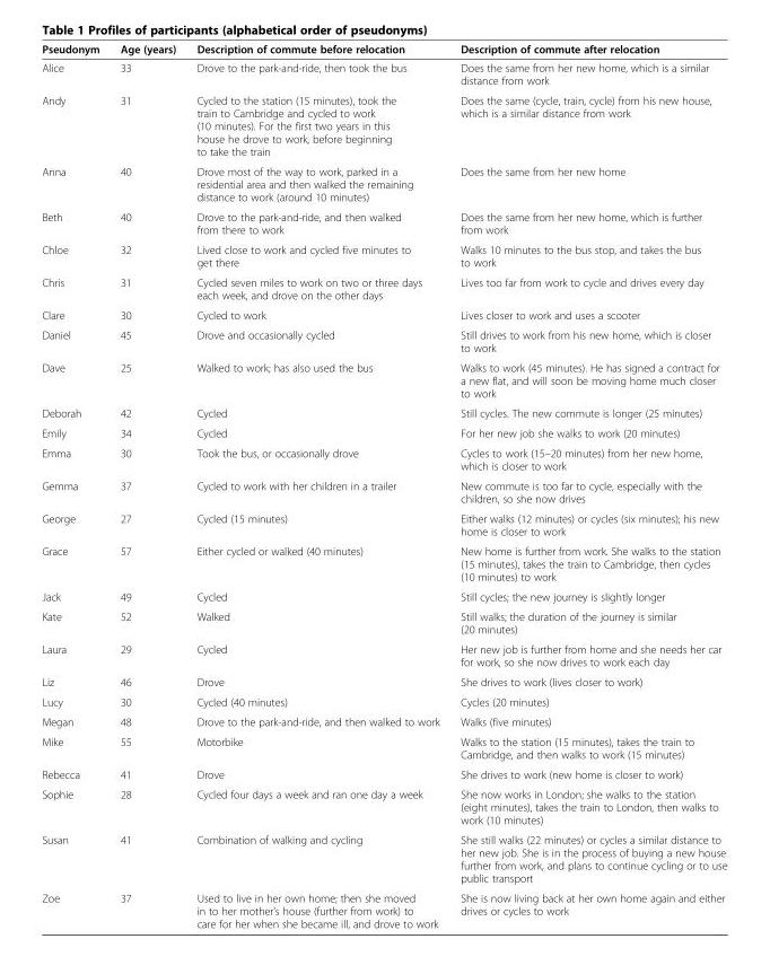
<table><thead><tr><td>Pseudonym</td><td>Age (years)</td><td>Description of commute before relocation</td><td>Description of commute after relocation</td></tr></thead><tbody><tr><td>Alice</td><td>33</td><td>Drove to the park-and-ride, then took the bus</td><td>Does the same from her new home, which is a similar distance from work</td></tr><tr><td>Andy</td><td>31</td><td>Cycled to the station (15 minutes), took the train to Cambridge and cycled to work (10 minutes). For the first two years in this house he drove to work, before beginning to take the train</td><td>Does the same (cycle, train, cycle) from his new house, which is a similar distance from work</td></tr><tr><td>Anna</td><td>40</td><td>Drove most of the way to work, parked in a residential area and then walked the remaining distance to work (around 10 minutes)</td><td>Does the same from her new home</td></tr><tr><td>Beth</td><td>40</td><td>Drove to the park-and-ride, and then walked from there to work</td><td>Does the same from her new home, which is further from work</td></tr><tr><td>Chloe</td><td>32</td><td>Lived close to work and cycled five minutes to get there</td><td>Walks 10 minutes to the bus stop, and takes the bus to work</td></tr><tr><td>Chris</td><td>31</td><td>Cycled seven miles to work on two or three days each week, and drove on the other days</td><td>Lives too far from work to cycle and drives every day</td></tr><tr><td>Clare</td><td>30</td><td>Cycled to work</td><td>Lives closer to work and uses a scooter</td></tr><tr><td>Daniel</td><td>45</td><td>Drove and occasionally cycled</td><td>Still drives to work from his new home, which is closer to work</td></tr><tr><td>Dave</td><td>25</td><td>Walked to work; has also used the bus</td><td>Walks to work (45 minutes). He has signed a contract for a new flat, and will soon be moving home much closer to work</td></tr><tr><td>Deborah</td><td>42</td><td>Cycled</td><td>Still cycles. The new commute is longer (25 minutes)</td></tr><tr><td>Emily</td><td>34</td><td>Cycled</td><td>For her new job she walks to work (20 minutes)</td></tr><tr><td>Emma</td><td>30</td><td>Took the bus, or occasionally drove</td><td>Cycles to work (15–20 minutes) from her new home, which is closer to work</td></tr><tr><td>Gemma</td><td>37</td><td>Cycled to work with her children in a trailer</td><td>New commute is too far to cycle, especially with the children, so she now drives</td></tr><tr><td>George</td><td>27</td><td>Cycled (15 minutes)</td><td>Either walks (12 minutes) or cycles (six minutes); his new home is closer to work</td></tr><tr><td>Grace</td><td>57</td><td>Either cycled or walked (40 minutes)</td><td>New home is further from work. She walks to the station (15 minutes), takes the train to Cambridge, then cycles (10 minutes) to work</td></tr><tr><td>Jack</td><td>49</td><td>Cycled</td><td>Still cycles; the new journey is slightly longer</td></tr><tr><td>Kate</td><td>52</td><td>Walked</td><td>Still walks; the duration of the journey is similar (20 minutes)</td></tr><tr><td>Laura</td><td>29</td><td>Cycled</td><td>Her new job is further from home and she needs her car for work, so she now drives to work each day</td></tr><tr><td>Liz</td><td>46</td><td>Drove</td><td>She drives to work (lives closer to work)</td></tr><tr><td>Lucy</td><td>30</td><td>Cycled (40 minutes)</td><td>Cycles (20 minutes)</td></tr><tr><td>Megan</td><td>48</td><td>Drove to the park-and-ride, and then walked to work</td><td>Walks (five minutes)</td></tr><tr><td>Mike</td><td>55</td><td>Motorbike</td><td>Walks to the station (15 minutes), takes the train to Cambridge, and then walks to work (15 minutes)</td></tr><tr><td>Rebecca</td><td>41</td><td>Drove</td><td>She drives to work (new home is closer to work)</td></tr><tr><td>Sophie</td><td>28</td><td>Cycled four days a week and ran one day a week</td><td>She now works in London; she walks to the station (eight minutes), takes the train to London, then walks to work (10 minutes)</td></tr><tr><td>Susan</td><td>41</td><td>Combination of walking and cycling</td><td>She still walks (22 minutes) or cycles a similar distance to her new job. She is in the process of buying a new house further from work, and plans to continue cycling or to use public transport</td></tr><tr><td>Zoe</td><td>37</td><td>Used to live in her own home; then she moved in to her mother’s house (further from work) to care for her when she became ill, and drove to work</td><td>She is now living back at her own home again and either drives or cycles to work</td></tr></tbody></table>